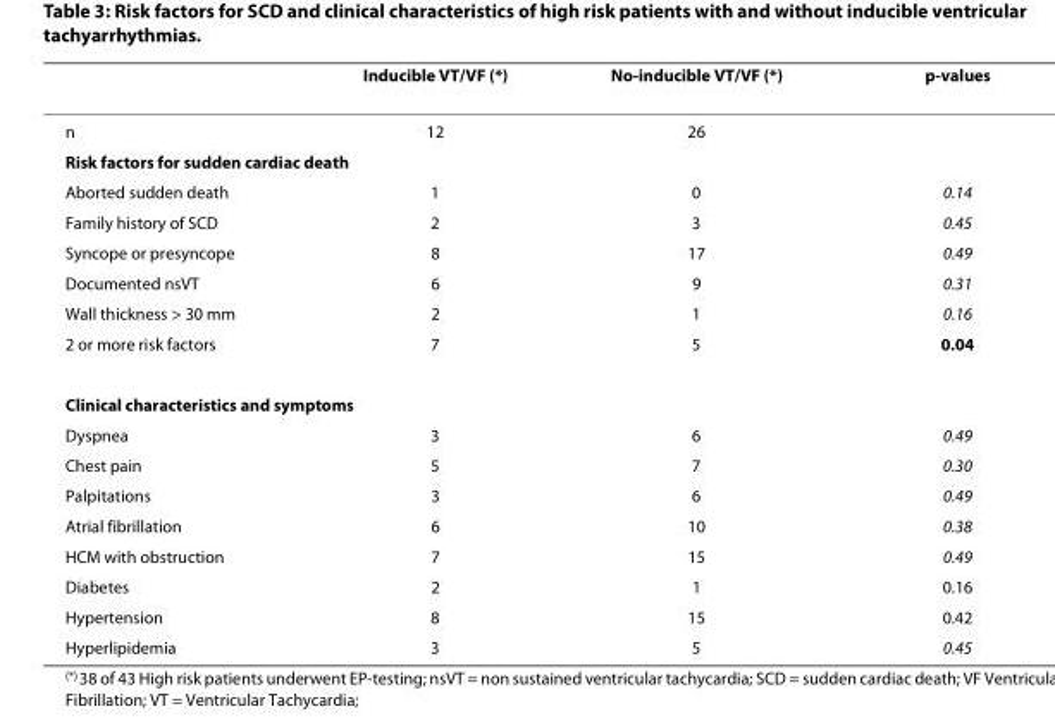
<table><thead><tr><td></td><td>Inducible VT/VF (*)</td><td>No-inducible VT/VF (*)</td><td>p-values</td></tr></thead><tbody><tr><td>n</td><td>12</td><td>26</td><td></td></tr><tr><td colspan="4">Risk factors for sudden cardiac death</td></tr><tr><td>Aborted sudden death</td><td>1</td><td>0</td><td>0.14</td></tr><tr><td>Family history of SCD</td><td>2</td><td>3</td><td>0.45</td></tr><tr><td>Syncope or presyncope</td><td>8</td><td>17</td><td>0.49</td></tr><tr><td>Documented nsVT</td><td>6</td><td>9</td><td>0.31</td></tr><tr><td>Wall thickness &gt; 30 mm</td><td>2</td><td>1</td><td>0.16</td></tr><tr><td>2 or more risk factors</td><td>7</td><td>5</td><td>0.04</td></tr><tr><td colspan="4">Clinical characteristics and symptoms</td></tr><tr><td>Dyspnea</td><td>3</td><td>6</td><td>0.49</td></tr><tr><td>Chest pain</td><td>5</td><td>7</td><td>0.30</td></tr><tr><td>Palpitations</td><td>3</td><td>6</td><td>0.49</td></tr><tr><td>Atrial fibrillation</td><td>6</td><td>10</td><td>0.38</td></tr><tr><td>HCM with obstruction</td><td>7</td><td>15</td><td>0.49</td></tr><tr><td>Diabetes</td><td>2</td><td>1</td><td>0.16</td></tr><tr><td>Hypertension</td><td>8</td><td>15</td><td>0.42</td></tr><tr><td>Hyperlipidemia</td><td>3</td><td>5</td><td>0.45</td></tr></tbody></table>